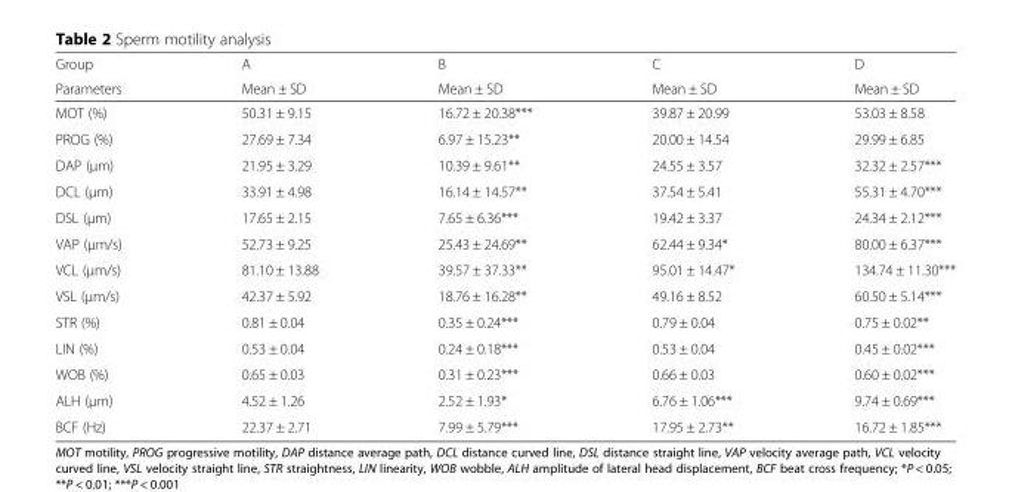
<table><thead><tr><td rowspan="2">Group Parameters</td><td rowspan="2">A Mean ± SD</td><td rowspan="2">B Mean ± SD</td><td rowspan="2">C Mean ± SD</td><td rowspan="2">D Mean ± SD</td></tr><tr></tr></thead><tbody><tr><td>MOT (%)</td><td>50.31 ± 9.15</td><td>16.72 ± 20.38***</td><td>39.87 ± 20.99</td><td>53.03 ± 8.58</td></tr><tr><td>PROG (%)</td><td>27.69 ± 7.34</td><td>6.97 ± 15.23**</td><td>20.00 ± 14.54</td><td>29.99 ± 6.85</td></tr><tr><td>DAP (μm)</td><td>21.95 ± 3.29</td><td>10.39 ± 9.61**</td><td>24.55 ± 3.57</td><td>32.32 ± 2.57***</td></tr><tr><td>DCL (μm)</td><td>33.91 ± 4.98</td><td>16.14 ± 14.57**</td><td>37.54 ± 5.41</td><td>55.31 ± 4.70***</td></tr><tr><td>DSL (μm)</td><td>17.65 ± 2.15</td><td>7.65 ± 6.36***</td><td>19.42 ± 3.37</td><td>24.34 ± 2.12***</td></tr><tr><td>VAP (μm/s)</td><td>52.73 ± 9.25</td><td>25.43 ± 24.69**</td><td>62.44 ± 9.34*</td><td>80.00 ± 6.37***</td></tr><tr><td>VCL (μm/s)</td><td>81.10 ± 13.88</td><td>39.57 ± 37.33**</td><td>95.01 ± 14.47*</td><td>134.74 ± 11.30***</td></tr><tr><td>VSL (μm/s)</td><td>42.37 ± 5.92</td><td>18.76 ± 16.28**</td><td>49.16 ± 8.52</td><td>60.50 ± 5.14***</td></tr><tr><td>STR (%)</td><td>0.81 ± 0.04</td><td>0.35 ± 0.24***</td><td>0.79 ± 0.04</td><td>0.75 ± 0.02**</td></tr><tr><td>LIN (%)</td><td>0.53 ± 0.04</td><td>0.24 ± 0.18***</td><td>0.53 ± 0.04</td><td>0.45 ± 0.02***</td></tr><tr><td>WOB (%)</td><td>0.65 ± 0.03</td><td>0.31 ± 0.23***</td><td>0.66 ± 0.03</td><td>0.60 ± 0.02***</td></tr><tr><td>ALH (μm)</td><td>4.52 ± 1.26</td><td>2.52 ± 1.93*</td><td>6.76 ± 1.06***</td><td>9.74 ± 0.69***</td></tr><tr><td>BCF (Hz)</td><td>22.37 ± 2.71</td><td>7.99 ± 5.79***</td><td>17.95 ± 2.73**</td><td>16.72 ± 1.85***</td></tr></tbody></table>